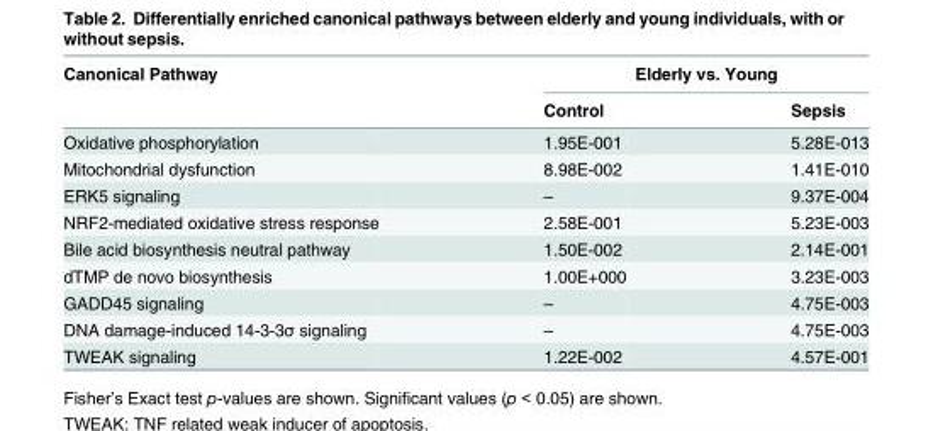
<table><thead><tr><td rowspan="2">Canonical Pathway</td><td colspan="2">Elderly vs. Young</td></tr><tr><td>Control</td><td>Sepsis</td></tr></thead><tbody><tr><td>Oxidative phosphorylation</td><td>1.95E-001</td><td>5.28E-013</td></tr><tr><td>Mitochondrial dysfunction</td><td>8.98E-002</td><td>1.41E-010</td></tr><tr><td>ERK5 signaling</td><td>–</td><td>9.37E-004</td></tr><tr><td>NRF2-mediated oxidative stress response</td><td>2.58E-001</td><td>5.23E-003</td></tr><tr><td>Bile acid biosynthesis neutral pathway</td><td>1.50E-002</td><td>2.14E-001</td></tr><tr><td>dTMP de novo biosynthesis</td><td>1.00E+000</td><td>3.23E-003</td></tr><tr><td>GADD45 signaling</td><td>–</td><td>4.75E-003</td></tr><tr><td>DNA damage-induced 14-3-3σ signaling</td><td>–</td><td>4.75E-003</td></tr><tr><td>TWEAK signaling</td><td>1.22E-002</td><td>4.57E-001</td></tr></tbody></table>